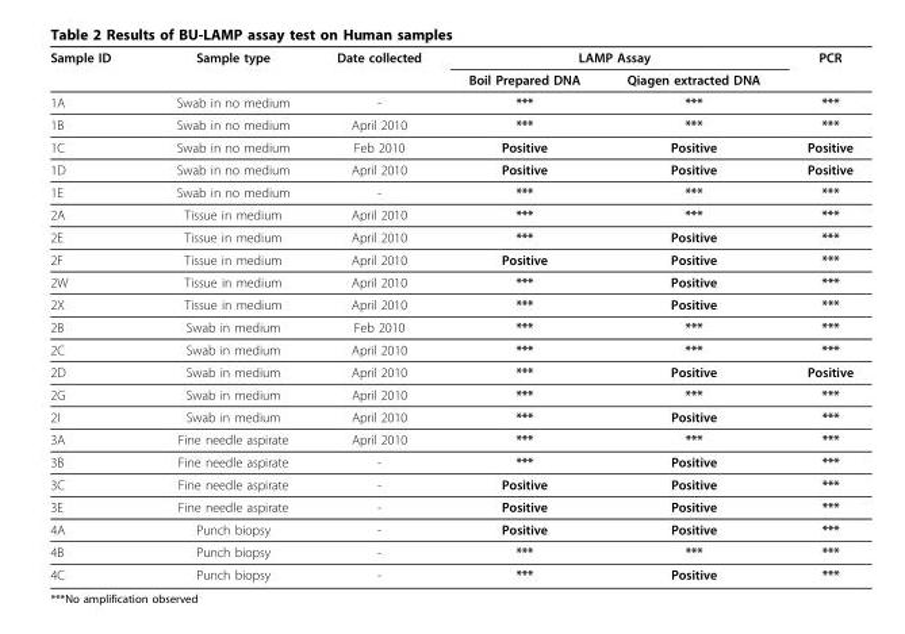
<table><thead><tr><td rowspan="2">Sample ID</td><td rowspan="2">Sample type</td><td rowspan="2">Date collected</td><td colspan="2">LAMP Assay</td><td rowspan="2">PCR</td></tr><tr><td>Boil Prepared DNA</td><td>Qiagen extracted DNA</td></tr></thead><tbody><tr><td>1A</td><td>Swab in no medium</td><td>-</td><td>***</td><td>***</td><td>***</td></tr><tr><td>1B</td><td>Swab in no medium</td><td>April 2010</td><td>***</td><td>***</td><td>***</td></tr><tr><td>1C</td><td>Swab in no medium</td><td>Feb 2010</td><td>Positive</td><td>Positive</td><td>Positive</td></tr><tr><td>1D</td><td>Swab in no medium</td><td>April 2010</td><td>Positive</td><td>Positive</td><td>Positive</td></tr><tr><td>1E</td><td>Swab in no medium</td><td>-</td><td>***</td><td>***</td><td>***</td></tr><tr><td>2A</td><td>Tissue in medium</td><td>April 2010</td><td>***</td><td>***</td><td>***</td></tr><tr><td>2E</td><td>Tissue in medium</td><td>April 2010</td><td>***</td><td>Positive</td><td>***</td></tr><tr><td>2F</td><td>Tissue in medium</td><td>April 2010</td><td>Positive</td><td>Positive</td><td>***</td></tr><tr><td>2W</td><td>Tissue in medium</td><td>April 2010</td><td>***</td><td>Positive</td><td>***</td></tr><tr><td>2X</td><td>Tissue in medium</td><td>April 2010</td><td>***</td><td>Positive</td><td>***</td></tr><tr><td>2B</td><td>Swab in medium</td><td>Feb 2010</td><td>***</td><td>***</td><td>***</td></tr><tr><td>2C</td><td>Swab in medium</td><td>April 2010</td><td>***</td><td>***</td><td>***</td></tr><tr><td>2D</td><td>Swab in medium</td><td>April 2010</td><td>***</td><td>Positive</td><td>Positive</td></tr><tr><td>2G</td><td>Swab in medium</td><td>April 2010</td><td>***</td><td>***</td><td>***</td></tr><tr><td>2I</td><td>Swab in medium</td><td>April 2010</td><td>***</td><td>Positive</td><td>***</td></tr><tr><td>3A</td><td>Fine needle aspirate</td><td>April 2010</td><td>***</td><td>***</td><td>***</td></tr><tr><td>3B</td><td>Fine needle aspirate</td><td>-</td><td>***</td><td>Positive</td><td>***</td></tr><tr><td>3C</td><td>Fine needle aspirate</td><td>-</td><td>Positive</td><td>Positive</td><td>***</td></tr><tr><td>3E</td><td>Fine needle aspirate</td><td>-</td><td>Positive</td><td>Positive</td><td>***</td></tr><tr><td>4A</td><td>Punch biopsy</td><td>-</td><td>Positive</td><td>Positive</td><td>***</td></tr><tr><td>4B</td><td>Punch biopsy</td><td>-</td><td>***</td><td>***</td><td>***</td></tr><tr><td>4C</td><td>Punch biopsy</td><td>-</td><td>***</td><td>Positive</td><td>***</td></tr></tbody></table>